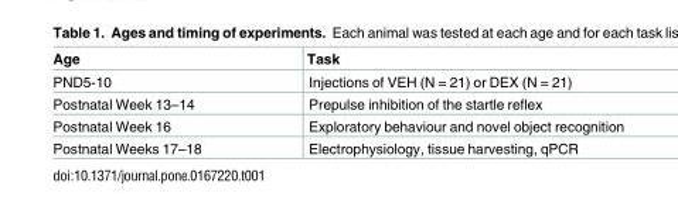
<table><thead><tr><td>Age</td><td>Task</td></tr></thead><tbody><tr><td>PND5-10</td><td>Injections of VEH (N = 21) or DEX (N = 21)</td></tr><tr><td>Postnatal Week 13–14</td><td>Prepulse inhibition of the startle reflex</td></tr><tr><td>Postnatal Week 16</td><td>Exploratory behaviour and novel object recognition</td></tr><tr><td>Postnatal Weeks 17–18</td><td>Electrophysiology, tissue harvesting, qPCR</td></tr></tbody></table>